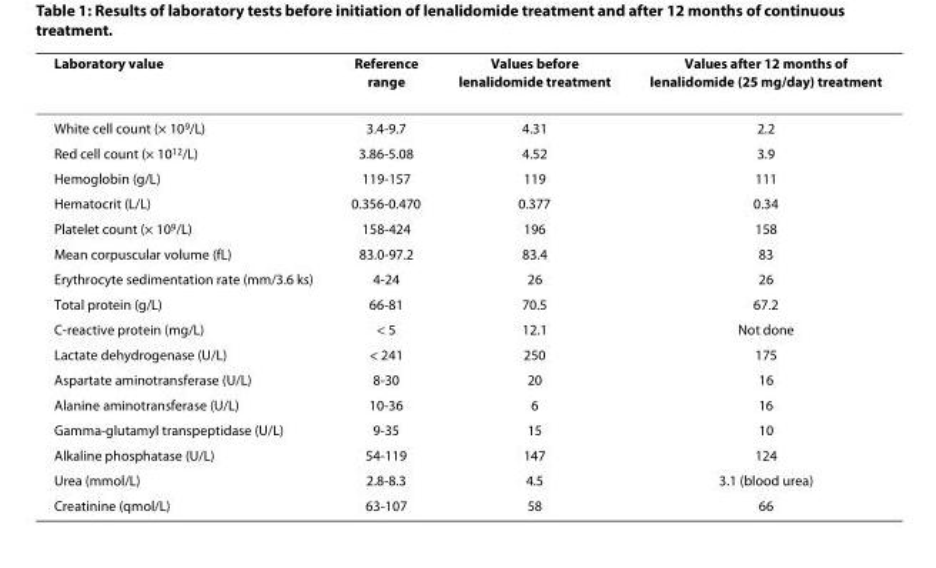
<table><thead><tr><td>Laboratory value</td><td>Reference range</td><td>Values before lenalidomide treatment</td><td>Values after 12 months of lenalidomide (25 mg/day) treatment</td></tr></thead><tbody><tr><td>White cell count (× 10<sup>9</sup>/L)</td><td>3.4-9.7</td><td>4.31</td><td>2.2</td></tr><tr><td>Red cell count (× 10<sup>12</sup>/L)</td><td>3.86-5.08</td><td>4.52</td><td>3.9</td></tr><tr><td>Hemoglobin (g/L)</td><td>119-157</td><td>119</td><td>111</td></tr><tr><td>Hematocrit (L/L)</td><td>0.356-0.470</td><td>0.377</td><td>0.34</td></tr><tr><td>Platelet count (× 10<sup>9</sup>/L)</td><td>158-424</td><td>196</td><td>158</td></tr><tr><td>Mean corpuscular volume (fL)</td><td>83.0-97.2</td><td>83.4</td><td>83</td></tr><tr><td>Erythrocyte sedimentation rate (mm/3.6 ks)</td><td>4-24</td><td>26</td><td>26</td></tr><tr><td>Total protein (g/L)</td><td>66-81</td><td>70.5</td><td>67.2</td></tr><tr><td>C-reactive protein (mg/L)</td><td>&lt; 5</td><td>12.1</td><td>Not done</td></tr><tr><td>Lactate dehydrogenase (U/L)</td><td>&lt; 241</td><td>250</td><td>175</td></tr><tr><td>Aspartate aminotransferase (U/L)</td><td>8-30</td><td>20</td><td>16</td></tr><tr><td>Alanine aminotransferase (U/L)</td><td>10-36</td><td>6</td><td>16</td></tr><tr><td>Gamma-glutamyl transpeptidase (U/L)</td><td>9-35</td><td>15</td><td>10</td></tr><tr><td>Alkaline phosphatase (U/L)</td><td>54-119</td><td>147</td><td>124</td></tr><tr><td>Urea (mmol/L)</td><td>2.8-8.3</td><td>4.5</td><td>3.1 (blood urea)</td></tr><tr><td>Creatinine (qmol/L)</td><td>63-107</td><td>58</td><td>66</td></tr></tbody></table>